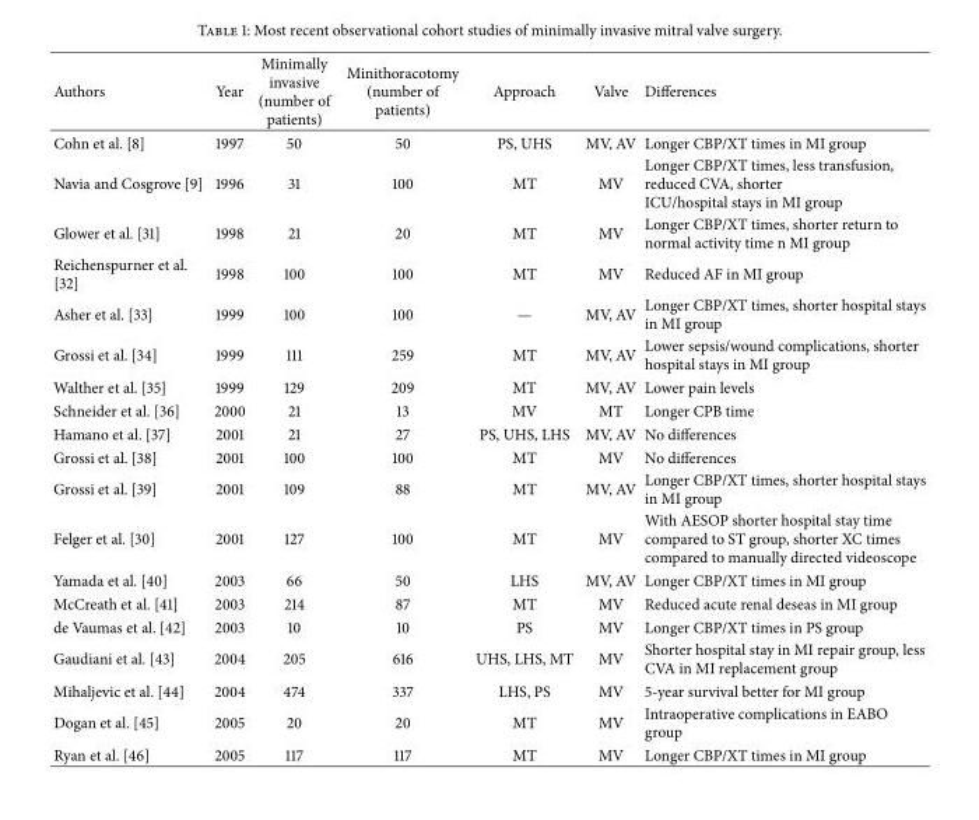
<table><thead><tr><td>Authors</td><td>Year</td><td>Minimally invasive (number of patients)</td><td>Minithoracotomy (number of patients)</td><td>Approach</td><td>Valve</td><td>Differences</td></tr></thead><tbody><tr><td>Cohn et al. [8]</td><td>1997</td><td>50</td><td>50</td><td>PS, UHS</td><td>MV, AV</td><td>Longer CBP/XT times in MI group</td></tr><tr><td>Navia and Cosgrove [9]</td><td>1996</td><td>31</td><td>100</td><td>MT</td><td>MV</td><td>Longer CBP/XT times, less transfusion, reduced CVA, shorter ICU/hospital stays in MI group</td></tr><tr><td>Glower et al. [31]</td><td>1998</td><td>21</td><td>20</td><td>MT</td><td>MV</td><td>Longer CBP/XT times, shorter return to normal activity time n MI group</td></tr><tr><td>Reichenspurner et al. [32]</td><td>1998</td><td>100</td><td>100</td><td>MT</td><td>MV</td><td>Reduced AF in MI group</td></tr><tr><td>Asher et al. [33]</td><td>1999</td><td>100</td><td>100</td><td>—</td><td>MV, AV</td><td>Longer CBP/XT times, shorter hospital stays in MI group</td></tr><tr><td>Grossi et al. [34]</td><td>1999</td><td>111</td><td>259</td><td>MT</td><td>MV, AV</td><td>Lower sepsis/wound complications, shorter hospital stays in MI group</td></tr><tr><td>Walther et al. [35]</td><td>1999</td><td>129</td><td>209</td><td>MT</td><td>MV, AV</td><td>Lower pain levels</td></tr><tr><td>Schneider et al. [36]</td><td>2000</td><td>21</td><td>13</td><td>MV</td><td>MT</td><td>Longer CPB time</td></tr><tr><td>Hamano et al. [37]</td><td>2001</td><td>21</td><td>27</td><td>PS, UHS, LHS</td><td>MV, AV</td><td>No differences</td></tr><tr><td>Grossi et al. [38]</td><td>2001</td><td>100</td><td>100</td><td>MT</td><td>MV</td><td>No differences</td></tr><tr><td>Grossi et al. [39]</td><td>2001</td><td>109</td><td>88</td><td>MT</td><td>MV, AV</td><td>Longer CBP/XT times, shorter hospital stays in MI group</td></tr><tr><td>Felger et al. [30]</td><td>2001</td><td>127</td><td>100</td><td>MT</td><td>MV</td><td>With AESOP shorter hospital stay time compared to ST group, shorter XC times compared to manually directed videoscope</td></tr><tr><td>Yamada et al. [40]</td><td>2003</td><td>66</td><td>50</td><td>LHS</td><td>MV, AV</td><td>Longer CBP/XT times in MI group</td></tr><tr><td>McCreath et al. [41]</td><td>2003</td><td>214</td><td>87</td><td>MT</td><td>MV</td><td>Reduced acute renal deseas in MI group</td></tr><tr><td>de Vaumas et al. [42]</td><td>2003</td><td>10</td><td>10</td><td>PS</td><td>MV</td><td>Longer CBP/XT times in PS group</td></tr><tr><td>Gaudiani et al. [43]</td><td>2004</td><td>205</td><td>616</td><td>UHS, LHS, MT</td><td>MV</td><td>Shorter hospital stay in MI repair group, less CVA in MI replacement group</td></tr><tr><td>Mihaljevic et al. [44]</td><td>2004</td><td>474</td><td>337</td><td>LHS, PS</td><td>MV</td><td>5-year survival better for MI group</td></tr><tr><td>Dogan et al. [45]</td><td>2005</td><td>20</td><td>20</td><td>MT</td><td>MV</td><td>Intraoperative complications in EABO group</td></tr><tr><td>Ryan et al. [46]</td><td>2005</td><td>117</td><td>117</td><td>MT</td><td>MV</td><td>Longer CBP/XT times in MI group</td></tr></tbody></table>